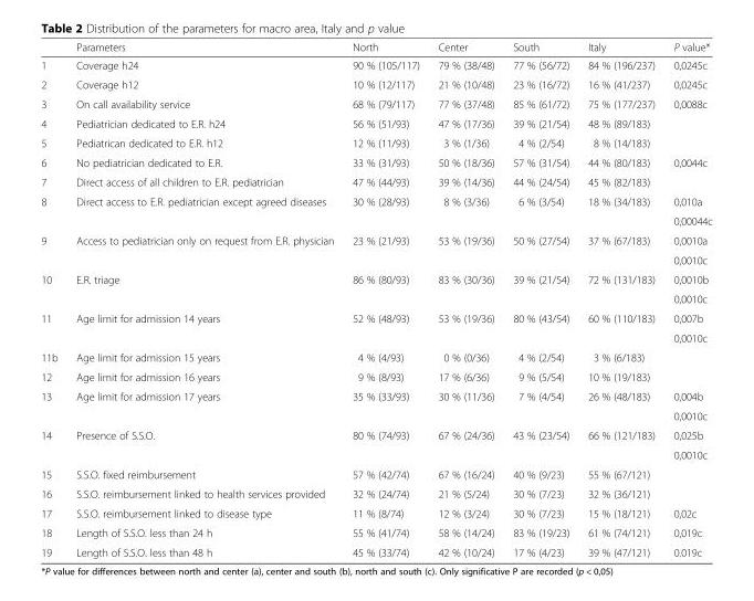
<table><thead><tr><td></td><td>Parameters</td><td>North</td><td>Center</td><td>South</td><td>Italy</td><td>P value*</td></tr></thead><tbody><tr><td>1</td><td>Coverage h24</td><td>90 % (105/117)</td><td>79 % (38/48)</td><td>77 % (56/72)</td><td>84 % (196/237)</td><td>0,0245c</td></tr><tr><td>2</td><td>Coverage h12</td><td>10 % (12/117)</td><td>21 % (10/48)</td><td>23 % (16/72)</td><td>16 % (41/237)</td><td>0,0245c</td></tr><tr><td>3</td><td>On call availability service</td><td>68 % (79/117)</td><td>77 % (37/48)</td><td>85 % (61/72)</td><td>75 % (177/237)</td><td>0,0088c</td></tr><tr><td>4</td><td>Pediatrician dedicated to E.R. h24</td><td>56 % (51/93)</td><td>47 % (17/36)</td><td>39 % (21/54)</td><td>48 % (89/183)</td><td></td></tr><tr><td>5</td><td>Pediatrican dedicated to E.R. h12</td><td>12 % (11/93)</td><td>3 % (1/36)</td><td>4 % (2/54)</td><td>8 % (14/183)</td><td></td></tr><tr><td>6</td><td>No pediatrician dedicated to E.R.</td><td>33 % (31/93)</td><td>50 % (18/36)</td><td>57 % (31/54)</td><td>44 % (80/183)</td><td>0,0044c</td></tr><tr><td>7</td><td>Direct access of all children to E.R. pediatrician</td><td>47 % (44/93)</td><td>39 % (14/36)</td><td>44 % (24/54)</td><td>45 % (82/183)</td><td></td></tr><tr><td rowspan="2">8</td><td rowspan="2">Direct access to E.R. pediatrician except agreed diseases</td><td rowspan="2">30 % (28/93)</td><td rowspan="2">8 % (3/36)</td><td rowspan="2">6 % (3/54)</td><td rowspan="2">18 % (34/183)</td><td>0,010a</td></tr><tr><td>0,00044c</td></tr><tr><td rowspan="2">9</td><td rowspan="2">Access to pediatrician only on request from E.R. physician</td><td rowspan="2">23 % (21/93)</td><td rowspan="2">53 % (19/36)</td><td rowspan="2">50 % (27/54)</td><td rowspan="2">37 % (67/183)</td><td>0,0010a</td></tr><tr><td>0,0010c</td></tr><tr><td rowspan="2">10</td><td rowspan="2">E.R. triage</td><td rowspan="2">86 % (80/93)</td><td rowspan="2">83 % (30/36)</td><td rowspan="2">39 % (21/54)</td><td rowspan="2">72 % (131/183)</td><td>0,0010b</td></tr><tr><td>0,0010c</td></tr><tr><td rowspan="2">11</td><td rowspan="2">Age limit for admission 14 years</td><td rowspan="2">52 % (48/93)</td><td rowspan="2">53 % (19/36)</td><td rowspan="2">80 % (43/54)</td><td rowspan="2">60 % (110/183)</td><td>0,007b</td></tr><tr><td>0,0010c</td></tr><tr><td>11b</td><td>Age limit for admission 15 years</td><td>4 % (4/93)</td><td>0 % (0/36)</td><td>4 % (2/54)</td><td>3 % (6/183)</td><td></td></tr><tr><td>12</td><td>Age limit for admission 16 years</td><td>9 % (8/93)</td><td>17 % (6/36)</td><td>9 % (5/54)</td><td>10 % (19/183)</td><td></td></tr><tr><td rowspan="2">13</td><td rowspan="2">Age limit for admission 17 years</td><td rowspan="2">35 % (33/93)</td><td rowspan="2">30 % (11/36)</td><td rowspan="2">7 % (4/54)</td><td rowspan="2">26 % (48/183)</td><td>0,004b</td></tr><tr><td>0,0010c</td></tr><tr><td rowspan="2">14</td><td rowspan="2">Presence of S.S.O.</td><td rowspan="2">80 % (74/93)</td><td rowspan="2">67 % (24/36)</td><td rowspan="2">43 % (23/54)</td><td rowspan="2">66 % (121/183)</td><td>0,025b</td></tr><tr><td>0,0010c</td></tr><tr><td>15</td><td>S.S.O. fixed reimbursement</td><td>57 % (42/74)</td><td>67 % (16/24)</td><td>40 % (9/23)</td><td>55 % (67/121)</td><td></td></tr><tr><td>16</td><td>S.S.O. reimbursement linked to health services provided</td><td>32 % (24/74)</td><td>21 % (5/24)</td><td>30 % (7/23)</td><td>32 % (36/121)</td><td></td></tr><tr><td>17</td><td>S.S.O. reimbursement linked to disease type</td><td>11 % (8/74)</td><td>12 % (3/24)</td><td>30 % (7/23)</td><td>15 % (18/121)</td><td>0,02c</td></tr><tr><td>18</td><td>Length of S.S.O. less than 24 h</td><td>55 % (41/74)</td><td>58 % (14/24)</td><td>83 % (19/23)</td><td>61 % (74/121)</td><td>0,019c</td></tr><tr><td>19</td><td>Length of S.S.O. less than 48 h</td><td>45 % (33/74)</td><td>42 % (10/24)</td><td>17 % (4/23)</td><td>39 % (47/121)</td><td>0.019c</td></tr></tbody></table>